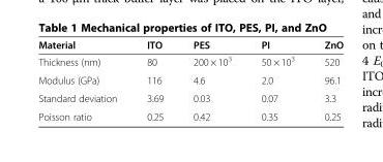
<table><thead><tr><td>Material</td><td>ITO</td><td>PES</td><td>PI</td><td>ZnO</td></tr></thead><tbody><tr><td>Thickness (nm)</td><td>80</td><td>200 × 10<sup>3</sup></td><td>50 × 10<sup>3</sup></td><td>520</td></tr><tr><td>Modulus (GPa)</td><td>116</td><td>4.6</td><td>2.0</td><td>96.1</td></tr><tr><td>Standard deviation</td><td>3.69</td><td>0.03</td><td>0.07</td><td>3.3</td></tr><tr><td>Poisson ratio</td><td>0.25</td><td>0.42</td><td>0.35</td><td>0.25</td></tr></tbody></table>